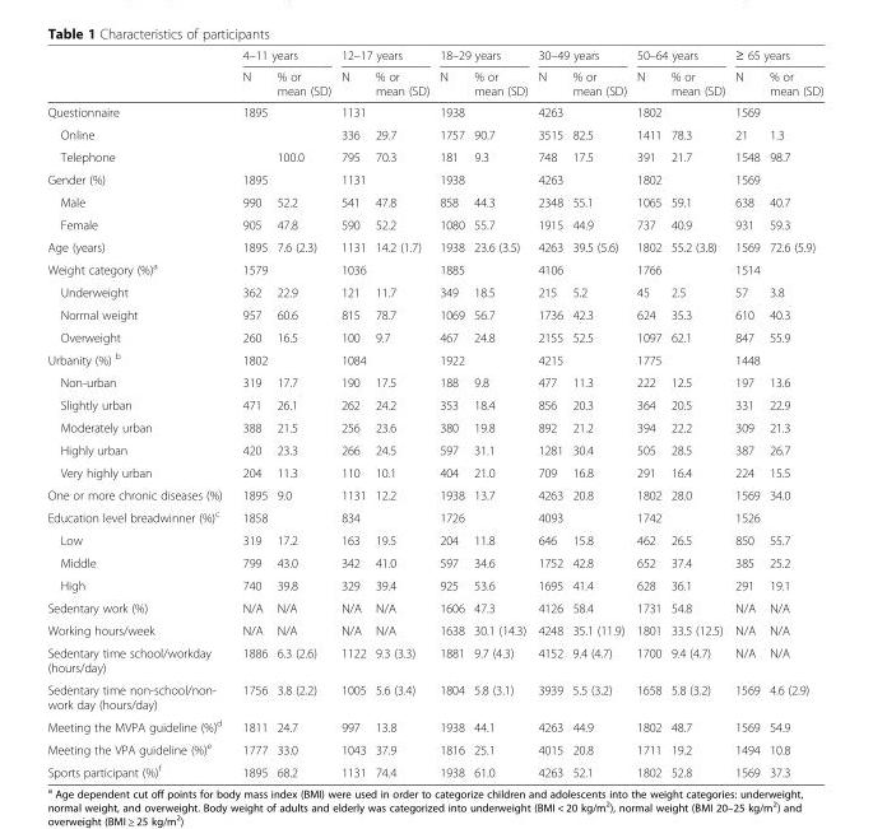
<table><thead><tr><td rowspan="2"></td><td colspan="2">4–11 years</td><td colspan="2">12–17 years</td><td colspan="2">18–29 years</td><td colspan="2">30–49 years</td><td colspan="2">50–64 years</td><td colspan="2">≥ 65 years</td></tr><tr><td>N</td><td>% or mean (SD)</td><td>N</td><td>% or mean (SD)</td><td>N</td><td>% or mean (SD)</td><td>N</td><td>% or mean (SD)</td><td>N</td><td>% or mean (SD)</td><td>N</td><td>% or mean (SD)</td></tr></thead><tbody><tr><td>Questionnaire</td><td rowspan="3">1895</td><td></td><td>1131</td><td></td><td>1938</td><td></td><td>4263</td><td></td><td>1802</td><td></td><td>1569</td><td></td></tr><tr><td>Online</td><td></td><td>336</td><td>29.7</td><td>1757</td><td>90.7</td><td>3515</td><td>82.5</td><td>1411</td><td>78.3</td><td>21</td><td>1.3</td></tr><tr><td>Telephone</td><td>100.0</td><td>795</td><td>70.3</td><td>181</td><td>9.3</td><td>748</td><td>17.5</td><td>391</td><td>21.7</td><td>1548</td><td>98.7</td></tr><tr><td>Gender (%)</td><td>1895</td><td></td><td>1131</td><td></td><td>1938</td><td></td><td>4263</td><td></td><td>1802</td><td></td><td>1569</td><td></td></tr><tr><td>Male</td><td>990</td><td>52.2</td><td>541</td><td>47.8</td><td>858</td><td>44.3</td><td>2348</td><td>55.1</td><td>1065</td><td>59.1</td><td>638</td><td>40.7</td></tr><tr><td>Female</td><td>905</td><td>47.8</td><td>590</td><td>52.2</td><td>1080</td><td>55.7</td><td>1915</td><td>44.9</td><td>737</td><td>40.9</td><td>931</td><td>59.3</td></tr><tr><td>Age (years)</td><td>1895</td><td>7.6 (2.3)</td><td>1131</td><td>14.2 (1.7)</td><td>1938</td><td>23.6 (3.5)</td><td>4263</td><td>39.5 (5.6)</td><td>1802</td><td>55.2 (3.8)</td><td>1569</td><td>72.6 (5.9)</td></tr><tr><td>Weight category (%)<sup>a</sup></td><td>1579</td><td></td><td>1036</td><td></td><td>1885</td><td></td><td>4106</td><td></td><td>1766</td><td></td><td>1514</td><td></td></tr><tr><td>Underweight</td><td>362</td><td>22.9</td><td>121</td><td>11.7</td><td>349</td><td>18.5</td><td>215</td><td>5.2</td><td>45</td><td>2.5</td><td>57</td><td>3.8</td></tr><tr><td>Normal weight</td><td>957</td><td>60.6</td><td>815</td><td>78.7</td><td>1069</td><td>56.7</td><td>1736</td><td>42.3</td><td>624</td><td>35.3</td><td>610</td><td>40.3</td></tr><tr><td>Overweight</td><td>260</td><td>16.5</td><td>100</td><td>9.7</td><td>467</td><td>24.8</td><td>2155</td><td>52.5</td><td>1097</td><td>62.1</td><td>847</td><td>55.9</td></tr><tr><td>Urbanity (%) <sup>b</sup></td><td>1802</td><td></td><td>1084</td><td></td><td>1922</td><td></td><td>4215</td><td></td><td>1775</td><td></td><td>1448</td><td></td></tr><tr><td>Non-urban</td><td>319</td><td>17.7</td><td>190</td><td>17.5</td><td>188</td><td>9.8</td><td>477</td><td>11.3</td><td>222</td><td>12.5</td><td>197</td><td>13.6</td></tr><tr><td>Slightly urban</td><td>471</td><td>26.1</td><td>262</td><td>24.2</td><td>353</td><td>18.4</td><td>856</td><td>20.3</td><td>364</td><td>20.5</td><td>331</td><td>22.9</td></tr><tr><td>Moderately urban</td><td>388</td><td>21.5</td><td>256</td><td>23.6</td><td>380</td><td>19.8</td><td>892</td><td>21.2</td><td>394</td><td>22.2</td><td>309</td><td>21.3</td></tr><tr><td>Highly urban</td><td>420</td><td>23.3</td><td>266</td><td>24.5</td><td>597</td><td>31.1</td><td>1281</td><td>30.4</td><td>505</td><td>28.5</td><td>387</td><td>26.7</td></tr><tr><td>Very highly urban</td><td>204</td><td>11.3</td><td>110</td><td>10.1</td><td>404</td><td>21.0</td><td>709</td><td>16.8</td><td>291</td><td>16.4</td><td>224</td><td>15.5</td></tr><tr><td>One or more chronic diseases (%)</td><td>1895</td><td>9.0</td><td>1131</td><td>12.2</td><td>1938</td><td>13.7</td><td>4263</td><td>20.8</td><td>1802</td><td>28.0</td><td>1569</td><td>34.0</td></tr><tr><td>Education level breadwinner (%)<sup>c</sup></td><td>1858</td><td></td><td>834</td><td></td><td>1726</td><td></td><td>4093</td><td></td><td>1742</td><td></td><td>1526</td><td></td></tr><tr><td>Low</td><td>319</td><td>17.2</td><td>163</td><td>19.5</td><td>204</td><td>11.8</td><td>646</td><td>15.8</td><td>462</td><td>26.5</td><td>850</td><td>55.7</td></tr><tr><td>Middle</td><td>799</td><td>43.0</td><td>342</td><td>41.0</td><td>597</td><td>34.6</td><td>1752</td><td>42.8</td><td>652</td><td>37.4</td><td>385</td><td>25.2</td></tr><tr><td>High</td><td>740</td><td>39.8</td><td>329</td><td>39.4</td><td>925</td><td>53.6</td><td>1695</td><td>41.4</td><td>628</td><td>36.1</td><td>291</td><td>19.1</td></tr><tr><td>Sedentary work (%)</td><td>N/A</td><td>N/A</td><td>N/A</td><td>N/A</td><td>1606</td><td>47.3</td><td>4126</td><td>58.4</td><td>1731</td><td>54.8</td><td>N/A</td><td>N/A</td></tr><tr><td>Working hours/week</td><td>N/A</td><td>N/A</td><td>N/A</td><td>N/A</td><td>1638</td><td>30.1 (14.3)</td><td>4248</td><td>35.1 (11.9)</td><td>1801</td><td>33.5 (12.5)</td><td>N/A</td><td>N/A</td></tr><tr><td>Sedentary time school/workday (hours/day)</td><td>1886</td><td>6.3 (2.6)</td><td>1122</td><td>9.3 (3.3)</td><td>1881</td><td>9.7 (4.3)</td><td>4152</td><td>9.4 (4.7)</td><td>1700</td><td>9.4 (4.7)</td><td>N/A</td><td>N/A</td></tr><tr><td>Sedentary time non-school/non- work day (hours/day)</td><td>1756</td><td>3.8 (2.2)</td><td>1005</td><td>5.6 (3.4)</td><td>1804</td><td>5.8 (3.1)</td><td>3939</td><td>5.5 (3.2)</td><td>1658</td><td>5.8 (3.2)</td><td>1569</td><td>4.6 (2.9)</td></tr><tr><td>Meeting the MVPA guideline (%)<sup>d</sup></td><td>1811</td><td>24.7</td><td>997</td><td>13.8</td><td>1938</td><td>44.1</td><td>4263</td><td>44.9</td><td>1802</td><td>48.7</td><td>1569</td><td>54.9</td></tr><tr><td>Meeting the VPA guideline (%)<sup>e</sup></td><td>1777</td><td>33.0</td><td>1043</td><td>37.9</td><td>1816</td><td>25.1</td><td>4015</td><td>20.8</td><td>1711</td><td>19.2</td><td>1494</td><td>10.8</td></tr><tr><td>Sports participant (%)<sup>f</sup></td><td>1895</td><td>68.2</td><td>1131</td><td>74.4</td><td>1938</td><td>61.0</td><td>4263</td><td>52.1</td><td>1802</td><td>52.8</td><td>1569</td><td>37.3</td></tr></tbody></table>